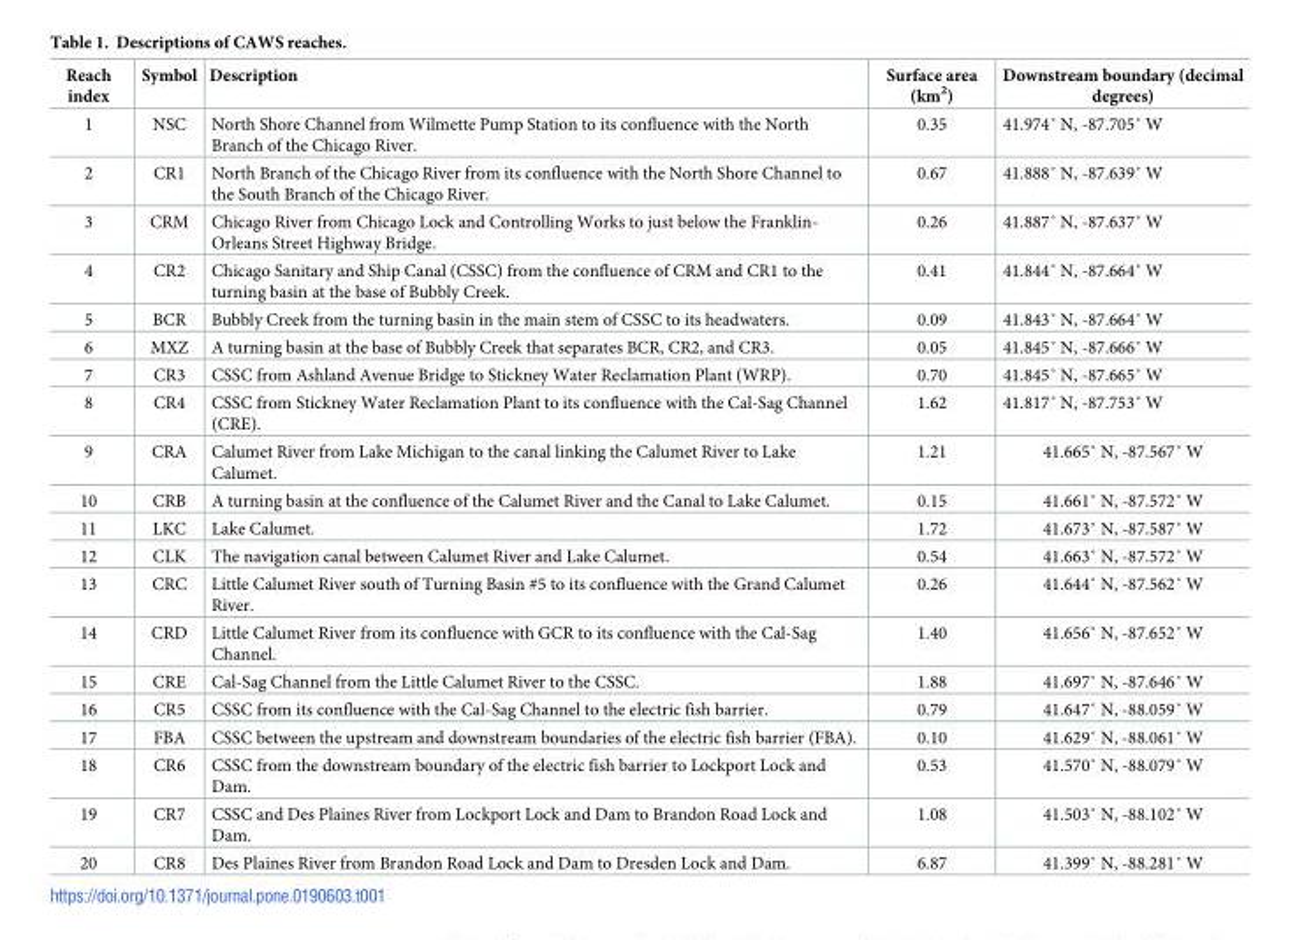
<table><thead><tr><td>Reach index</td><td>Symbol</td><td>Description</td><td>Surface area (km<sup>2</sup>)</td><td>Downstream boundary (decimal degrees)</td></tr></thead><tbody><tr><td>1</td><td>NSC</td><td>North Shore Channel from Wilmette Pump Station to its confluence with the North Branch of the Chicago River.</td><td>0.35</td><td>41.974˚ N, -87.705˚ W</td></tr><tr><td>2</td><td>CR1</td><td>North Branch of the Chicago River from its confluence with the North Shore Channel to the South Branch of the Chicago River.</td><td>0.67</td><td>41.888˚ N, -87.639˚ W</td></tr><tr><td>3</td><td>CRM</td><td>Chicago River from Chicago Lock and Controlling Works to just below the Franklin- Orleans Street Highway Bridge.</td><td>0.26</td><td>41.887˚ N, -87.637˚ W</td></tr><tr><td>4</td><td>CR2</td><td>Chicago Sanitary and Ship Canal (CSSC) from the confluence of CRM and CR1 to the turning basin at the base of Bubbly Creek.</td><td>0.41</td><td>41.844˚ N, -87.664˚ W</td></tr><tr><td>5</td><td>BCR</td><td>Bubbly Creek from the turning basin in the main stem of CSSC to its headwaters.</td><td>0.09</td><td>41.843˚ N, -87.664˚ W</td></tr><tr><td>6</td><td>MXZ</td><td>A turning basin at the base of Bubbly Creek that separates BCR, CR2, and CR3.</td><td>0.05</td><td>41.845˚ N, -87.666˚ W</td></tr><tr><td>7</td><td>CR3</td><td>CSSC from Ashland Avenue Bridge to Stickney Water Reclamation Plant (WRP).</td><td>0.70</td><td>41.845˚ N, -87.665˚ W</td></tr><tr><td>8</td><td>CR4</td><td>CSSC from Stickney Water Reclamation Plant to its confluence with the Cal-Sag Channel (CRE).</td><td>1.62</td><td>41.817˚ N, -87.753˚ W</td></tr><tr><td>9</td><td>CRA</td><td>Calumet River from Lake Michigan to the canal linking the Calumet River to Lake Calumet.</td><td>1.21</td><td>41.665˚ N, -87.567˚ W</td></tr><tr><td>10</td><td>CRB</td><td>A turning basin at the confluence of the Calumet River and the Canal to Lake Calumet.</td><td>0.15</td><td>41.661˚ N, -87.572˚ W</td></tr><tr><td>11</td><td>LKC</td><td>Lake Calumet.</td><td>1.72</td><td>41.673˚ N, -87.587˚ W</td></tr><tr><td>12</td><td>CLK</td><td>The navigation canal between Calumet River and Lake Calumet.</td><td>0.54</td><td>41.663˚ N, -87.572˚ W</td></tr><tr><td>13</td><td>CRC</td><td>Little Calumet River south of Turning Basin #5 to its confluence with the Grand Calumet River.</td><td>0.26</td><td>41.644˚ N, -87.562˚ W</td></tr><tr><td>14</td><td>CRD</td><td>Little Calumet River from its confluence with GCR to its confluence with the Cal-Sag Channel.</td><td>1.40</td><td>41.656˚ N, -87.652˚ W</td></tr><tr><td>15</td><td>CRE</td><td>Cal-Sag Channel from the Little Calumet River to the CSSC.</td><td>1.88</td><td>41.697˚ N, -87.646˚ W</td></tr><tr><td>16</td><td>CR5</td><td>CSSC from its confluence with the Cal-Sag Channel to the electric fish barrier.</td><td>0.79</td><td>41.647˚ N, -88.059˚ W</td></tr><tr><td>17</td><td>FBA</td><td>CSSC between the upstream and downstream boundaries of the electric fish barrier (FBA).</td><td>0.10</td><td>41.629˚ N, -88.061˚ W</td></tr><tr><td>18</td><td>CR6</td><td>CSSC from the downstream boundary of the electric fish barrier to Lockport Lock and Dam.</td><td>0.53</td><td>41.570˚ N, -88.079˚ W</td></tr><tr><td>19</td><td>CR7</td><td>CSSC and Des Plaines River from Lockport Lock and Dam to Brandon Road Lock and Dam.</td><td>1.08</td><td>41.503˚ N, -88.102˚ W</td></tr><tr><td>20</td><td>CR8</td><td>Des Plaines River from Brandon Road Lock and Dam to Dresden Lock and Dam.</td><td>6.87</td><td>41.399˚ N, -88.281˚ W</td></tr></tbody></table>